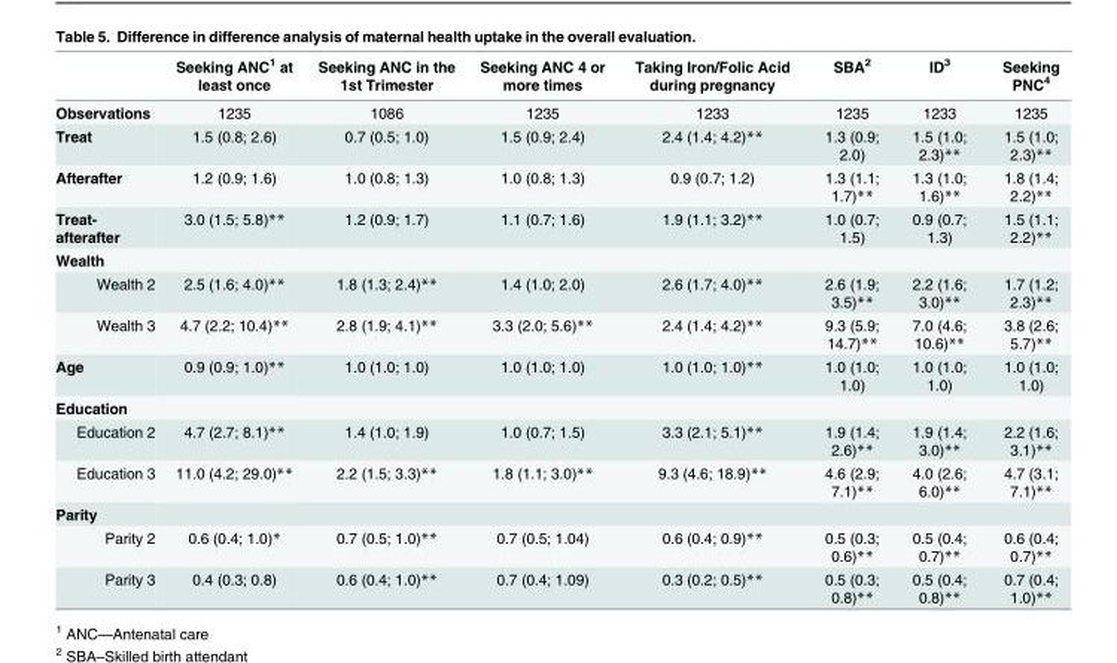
<table><thead><tr><td></td><td>Seeking ANC<sup>1</sup> at least once</td><td>Seeking ANC in the 1st Trimester</td><td>Seeking ANC 4 or more times</td><td>Taking Iron/Folic Acid during pregnancy</td><td>SBA<sup>2</sup></td><td>ID<sup>3</sup></td><td>Seeking PNC<sup>4</sup></td></tr></thead><tbody><tr><td>Observations</td><td>1235</td><td>1086</td><td>1235</td><td>1233</td><td>1235</td><td>1233</td><td>1235</td></tr><tr><td>Treat</td><td>1.5 (0.8; 2.6)</td><td>0.7 (0.5; 1.0)</td><td>1.5 (0.9; 2.4)</td><td>2.4 (1.4; 4.2)**</td><td>1.3 (0.9; 2.0)</td><td>1.5 (1.0; 2.3)**</td><td>1.5 (1.0; 2.3)**</td></tr><tr><td>Afterafter</td><td>1.2 (0.9; 1.6)</td><td>1.0 (0.8; 1.3)</td><td>1.0 (0.8; 1.3)</td><td>0.9 (0.7; 1.2)</td><td>1.3 (1.1; 1.7)**</td><td>1.3 (1.0; 1.6)**</td><td>1.8 (1.4; 2.2)**</td></tr><tr><td>Treat- afterafter</td><td>3.0 (1.5; 5.8)**</td><td>1.2 (0.9; 1.7)</td><td>1.1 (0.7; 1.6)</td><td>1.9 (1.1; 3.2)**</td><td>1.0 (0.7; 1.5)</td><td>0.9 (0.7; 1.3)</td><td>1.5 (1.1; 2.2)**</td></tr><tr><td colspan="8">Wealth</td></tr><tr><td>Wealth 2</td><td>2.5 (1.6; 4.0)**</td><td>1.8 (1.3; 2.4)**</td><td>1.4 (1.0; 2.0)</td><td>2.6 (1.7; 4.0)**</td><td>2.6 (1.9; 3.5)**</td><td>2.2 (1.6; 3.0)**</td><td>1.7 (1.2; 2.3)**</td></tr><tr><td>Wealth 3</td><td>4.7 (2.2; 10.4)**</td><td>2.8 (1.9; 4.1)**</td><td>3.3 (2.0; 5.6)**</td><td>2.4 (1.4; 4.2)**</td><td>9.3 (5.9; 14.7)**</td><td>7.0 (4.6; 10.6)**</td><td>3.8 (2.6; 5.7)**</td></tr><tr><td>Age</td><td>0.9 (0.9; 1.0)**</td><td>1.0 (1.0; 1.0)</td><td>1.0 (1.0; 1.0)</td><td>1.0 (1.0; 1.0)**</td><td>1.0 (1.0; 1.0)</td><td>1.0 (1.0; 1.0)</td><td>1.0 (1.0; 1.0)</td></tr><tr><td colspan="8">Education</td></tr><tr><td>Education 2</td><td>4.7 (2.7; 8.1)**</td><td>1.4 (1.0; 1.9)</td><td>1.0 (0.7; 1.5)</td><td>3.3 (2.1; 5.1)**</td><td>1.9 (1.4; 2.6)**</td><td>1.9 (1.4; 3.0)**</td><td>2.2 (1.6; 3.1)**</td></tr><tr><td>Education 3</td><td>11.0 (4.2; 29.0)**</td><td>2.2 (1.5; 3.3)**</td><td>1.8 (1.1; 3.0)**</td><td>9.3 (4.6; 18.9)**</td><td>4.6 (2.9; 7.1)**</td><td>4.0 (2.6; 6.0)**</td><td>4.7 (3.1; 7.1)**</td></tr><tr><td colspan="8">Parity</td></tr><tr><td>Parity 2</td><td>0.6 (0.4; 1.0)*</td><td>0.7 (0.5; 1.0)**</td><td>0.7 (0.5; 1.04)</td><td>0.6 (0.4; 0.9)**</td><td>0.5 (0.3; 0.6)**</td><td>0.5 (0.4; 0.7)**</td><td>0.6 (0.4; 0.7)**</td></tr><tr><td>Parity 3</td><td>0.4 (0.3; 0.8)</td><td>0.6 (0.4; 1.0)**</td><td>0.7 (0.4; 1.09)</td><td>0.3 (0.2; 0.5)**</td><td>0.5 (0.3; 0.8)**</td><td>0.5 (0.4; 0.8)**</td><td>0.7 (0.4; 1.0)**</td></tr></tbody></table>